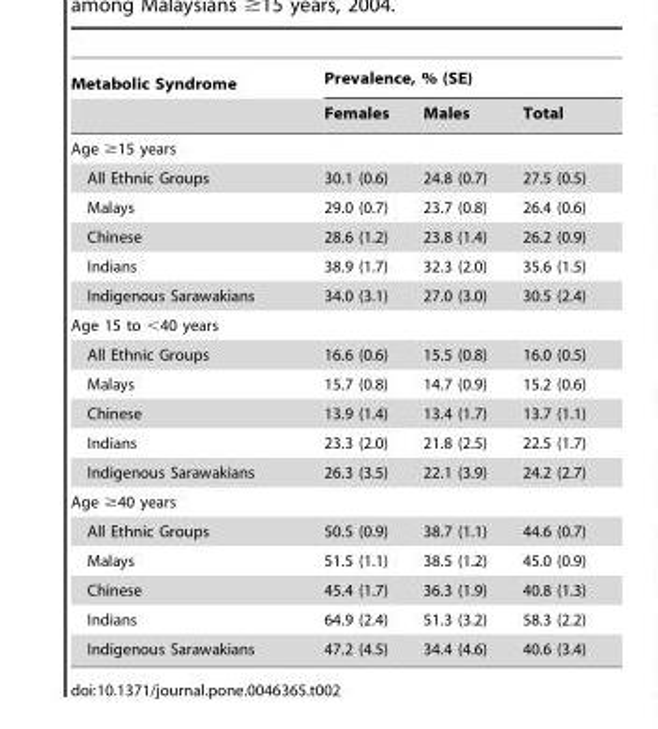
<table><thead><tr><td rowspan="2">Metabolic Syndrome</td><td colspan="3">Prevalence, % (SE)</td></tr><tr><td>Females</td><td>Males</td><td>Total</td></tr></thead><tbody><tr><td colspan="4">Age ≥15 years</td></tr><tr><td>All Ethnic Groups</td><td>30.1 (0.6)</td><td>24.8 (0.7)</td><td>27.5 (0.5)</td></tr><tr><td>Malays</td><td>29.0 (0.7)</td><td>23.7 (0.8)</td><td>26.4 (0.6)</td></tr><tr><td>Chinese</td><td>28.6 (1.2)</td><td>23.8 (1.4)</td><td>26.2 (0.9)</td></tr><tr><td>Indians</td><td>38.9 (1.7)</td><td>32.3 (2.0)</td><td>35.6 (1.5)</td></tr><tr><td>Indigenous Sarawakians</td><td>34.0 (3.1)</td><td>27.0 (3.0)</td><td>30.5 (2.4)</td></tr><tr><td colspan="4">Age 15 to &lt;40 years</td></tr><tr><td>All Ethnic Groups</td><td>16.6 (0.6)</td><td>15.5 (0.8)</td><td>16.0 (0.5)</td></tr><tr><td>Malays</td><td>15.7 (0.8)</td><td>14.7 (0.9)</td><td>15.2 (0.6)</td></tr><tr><td>Chinese</td><td>13.9 (1.4)</td><td>13.4 (1.7)</td><td>13.7 (1.1)</td></tr><tr><td>Indians</td><td>23.3 (2.0)</td><td>21.8 (2.5)</td><td>22.5 (1.7)</td></tr><tr><td>Indigenous Sarawakians</td><td>26.3 (3.5)</td><td>22.1 (3.9)</td><td>24.2 (2.7)</td></tr><tr><td colspan="4">Age ≥40 years</td></tr><tr><td>All Ethnic Groups</td><td>50.5 (0.9)</td><td>38.7 (1.1)</td><td>44.6 (0.7)</td></tr><tr><td>Malays</td><td>51.5 (1.1)</td><td>38.5 (1.2)</td><td>45.0 (0.9)</td></tr><tr><td>Chinese</td><td>45.4 (1.7)</td><td>36.3 (1.9)</td><td>40.8 (1.3)</td></tr><tr><td>Indians</td><td>64.9 (2.4)</td><td>51.3 (3.2)</td><td>58.3 (2.2)</td></tr><tr><td>Indigenous Sarawakians</td><td>47.2 (4.5)</td><td>34.4 (4.6)</td><td>40.6 (3.4)</td></tr></tbody></table>